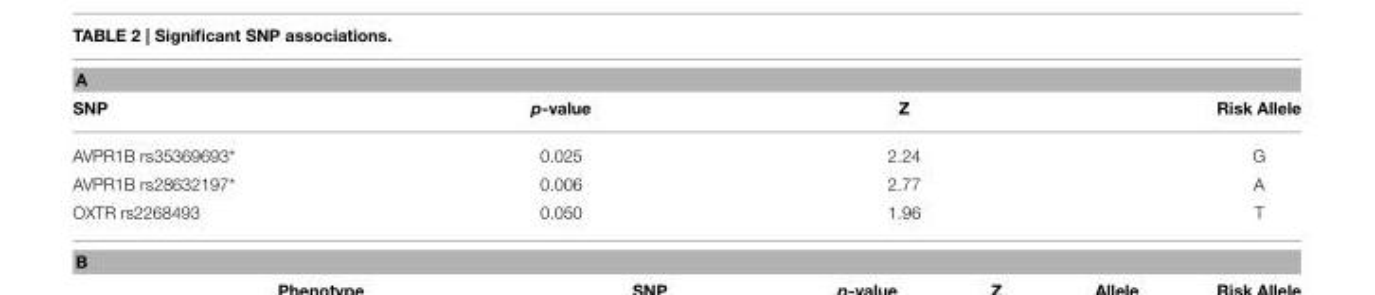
<table><thead><tr><td colspan="4">A</td></tr><tr><td>SNP</td><td>p-value</td><td>Z</td><td>Risk Allele</td></tr></thead><tbody><tr><td>AVPR1B rs35369693*</td><td>0.025</td><td>2.24</td><td>G</td></tr><tr><td>AVPR1B rs28632197*</td><td>0.006</td><td>2.77</td><td>A</td></tr><tr><td>OXTR rs2268493</td><td>0.050</td><td>1.96</td><td>T</td></tr></tbody></table>